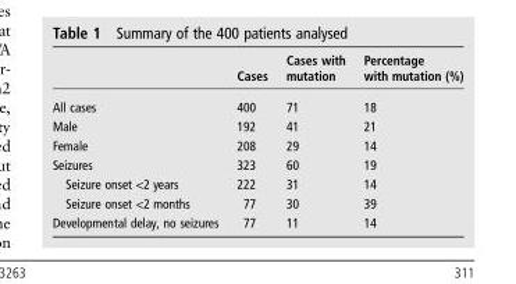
<table><thead><tr><td></td><td>Cases</td><td>Cases with mutation</td><td>Percentage with mutation (%)</td></tr></thead><tbody><tr><td>All cases</td><td>400</td><td>71</td><td>18</td></tr><tr><td>Male</td><td>192</td><td>41</td><td>21</td></tr><tr><td>Female</td><td>208</td><td>29</td><td>14</td></tr><tr><td>Seizures</td><td>323</td><td>60</td><td>19</td></tr><tr><td>Seizure onset &lt;2 years</td><td>222</td><td>31</td><td>14</td></tr><tr><td>Seizure onset &lt;2 months</td><td>77</td><td>30</td><td>39</td></tr><tr><td>Developmental delay, no seizures</td><td>77</td><td>11</td><td>14</td></tr></tbody></table>